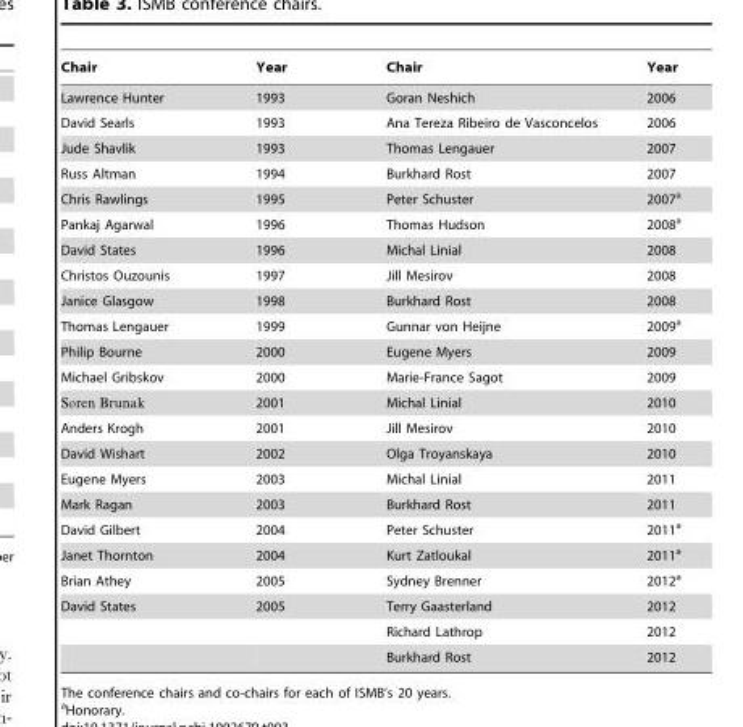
<table><thead><tr><td>Chair</td><td>Year</td><td>Chair</td><td>Year</td></tr></thead><tbody><tr><td>Lawrence Hunter</td><td>1993</td><td>Goran Neshich</td><td>2006</td></tr><tr><td>David Searls</td><td>1993</td><td>Ana Tereza Ribeiro de Vasconcelos</td><td>2006</td></tr><tr><td>Jude Shavlik</td><td>1993</td><td>Thomas Lengauer</td><td>2007</td></tr><tr><td>Russ Altman</td><td>1994</td><td>Burkhard Rost</td><td>2007</td></tr><tr><td>Chris Rawlings</td><td>1995</td><td>Peter Schuster</td><td>2007<sup>a</sup></td></tr><tr><td>Pankaj Agarwal</td><td>1996</td><td>Thomas Hudson</td><td>2008<sup>a</sup></td></tr><tr><td>David States</td><td>1996</td><td>Michal Linial</td><td>2008</td></tr><tr><td>Christos Ouzounis</td><td>1997</td><td>Jill Mesirov</td><td>2008</td></tr><tr><td>Janice Glasgow</td><td>1998</td><td>Burkhard Rost</td><td>2008</td></tr><tr><td>Thomas Lengauer</td><td>1999</td><td>Gunnar von Heijne</td><td>2009<sup>a</sup></td></tr><tr><td>Philip Bourne</td><td>2000</td><td>Eugene Myers</td><td>2009</td></tr><tr><td rowspan="2">Michael Gribskov S�ren Brunak</td><td>2000</td><td>Marie-France Sagot</td><td>2009</td></tr><tr><td>2001</td><td>Michal Linial</td><td>2010</td></tr><tr><td>Anders Krogh</td><td>2001</td><td>Jill Mesirov</td><td>2010</td></tr><tr><td>David Wishart</td><td>2002</td><td>Olga Troyanskaya</td><td>2010</td></tr><tr><td>Eugene Myers</td><td>2003</td><td>Michal Linial</td><td>2011</td></tr><tr><td>Mark Ragan</td><td>2003</td><td>Burkhard Rost</td><td>2011</td></tr><tr><td>David Gilbert</td><td>2004</td><td>Peter Schuster</td><td>2011<sup>a</sup></td></tr><tr><td>Janet Thornton</td><td>2004</td><td>Kurt Zatloukal</td><td>2011<sup>a</sup></td></tr><tr><td>Brian Athey</td><td>2005</td><td>Sydney Brenner</td><td>2012<sup>a</sup></td></tr><tr><td rowspan="3">David States</td><td>2005</td><td>Terry Gaasterland</td><td>2012</td></tr><tr><td></td><td>Richard Lathrop</td><td>2012</td></tr><tr><td></td><td>Burkhard Rost</td><td>2012</td></tr></tbody></table>